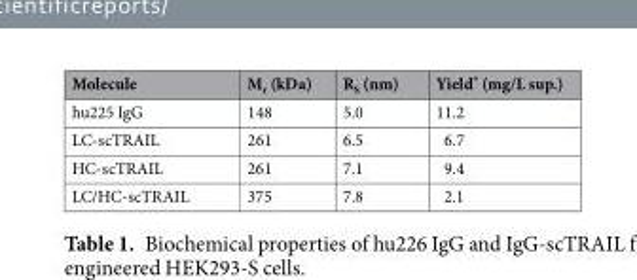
<table><thead><tr><td>Molecule</td><td>M<sub>r</sub> (kDa)</td><td>R<sub>S</sub> (nm)</td><td>Yield* (mg/L sup.)</td></tr></thead><tbody><tr><td>hu225 IgG</td><td>148</td><td>5.0</td><td>11.2</td></tr><tr><td>LC-scTRAIL</td><td>261</td><td>6.5</td><td>6.7</td></tr><tr><td>HC-scTRAIL</td><td>261</td><td>7.1</td><td>9.4</td></tr><tr><td>LC/HC-scTRAIL</td><td>375</td><td>7.8</td><td>2.1</td></tr></tbody></table>